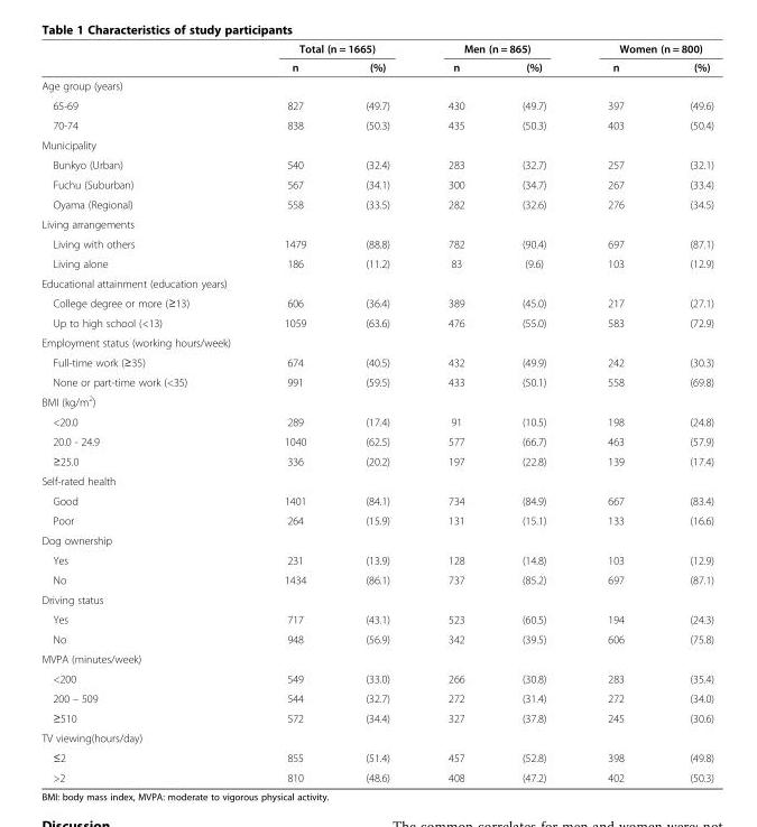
<table><thead><tr><td rowspan="2"></td><td colspan="2">Total (n = 1665)</td><td colspan="2">Men (n = 865)</td><td colspan="2">Women (n = 800)</td></tr><tr><td>n</td><td>(%)</td><td>n</td><td>(%)</td><td>n</td><td>(%)</td></tr></thead><tbody><tr><td colspan="7">Age group (years)</td></tr><tr><td>65-69</td><td>827</td><td>(49.7)</td><td>430</td><td>(49.7)</td><td>397</td><td>(49.6)</td></tr><tr><td>70-74</td><td>838</td><td>(50.3)</td><td>435</td><td>(50.3)</td><td>403</td><td>(50.4)</td></tr><tr><td colspan="7">Municipality</td></tr><tr><td>Bunkyo (Urban)</td><td>540</td><td>(32.4)</td><td>283</td><td>(32.7)</td><td>257</td><td>(32.1)</td></tr><tr><td>Fuchu (Suburban)</td><td>567</td><td>(34.1)</td><td>300</td><td>(34.7)</td><td>267</td><td>(33.4)</td></tr><tr><td>Oyama (Regional)</td><td>558</td><td>(33.5)</td><td>282</td><td>(32.6)</td><td>276</td><td>(34.5)</td></tr><tr><td colspan="7">Living arrangements</td></tr><tr><td>Living with others</td><td>1479</td><td>(88.8)</td><td>782</td><td>(90.4)</td><td>697</td><td>(87.1)</td></tr><tr><td>Living alone</td><td>186</td><td>(11.2)</td><td>83</td><td>(9.6)</td><td>103</td><td>(12.9)</td></tr><tr><td colspan="7">Educational attainment (education years)</td></tr><tr><td>College degree or more (≥13)</td><td>606</td><td>(36.4)</td><td>389</td><td>(45.0)</td><td>217</td><td>(27.1)</td></tr><tr><td>Up to high school (&lt;13)</td><td>1059</td><td>(63.6)</td><td>476</td><td>(55.0)</td><td>583</td><td>(72.9)</td></tr><tr><td colspan="7">Employment status (working hours/week)</td></tr><tr><td>Full-time work (≥35)</td><td>674</td><td>(40.5)</td><td>432</td><td>(49.9)</td><td>242</td><td>(30.3)</td></tr><tr><td>None or part-time work (&lt;35)</td><td>991</td><td>(59.5)</td><td>433</td><td>(50.1)</td><td>558</td><td>(69.8)</td></tr><tr><td colspan="7">BMI (kg/m<sup>2</sup>)</td></tr><tr><td>&lt;20.0</td><td>289</td><td>(17.4)</td><td>91</td><td>(10.5)</td><td>198</td><td>(24.8)</td></tr><tr><td>20.0 - 24.9</td><td>1040</td><td>(62.5)</td><td>577</td><td>(66.7)</td><td>463</td><td>(57.9)</td></tr><tr><td>≥25.0</td><td>336</td><td>(20.2)</td><td>197</td><td>(22.8)</td><td>139</td><td>(17.4)</td></tr><tr><td colspan="7">Self-rated health</td></tr><tr><td>Good</td><td>1401</td><td>(84.1)</td><td>734</td><td>(84.9)</td><td>667</td><td>(83.4)</td></tr><tr><td>Poor</td><td>264</td><td>(15.9)</td><td>131</td><td>(15.1)</td><td>133</td><td>(16.6)</td></tr><tr><td colspan="7">Dog ownership</td></tr><tr><td>Yes</td><td>231</td><td>(13.9)</td><td>128</td><td>(14.8)</td><td>103</td><td>(12.9)</td></tr><tr><td>No</td><td>1434</td><td>(86.1)</td><td>737</td><td>(85.2)</td><td>697</td><td>(87.1)</td></tr><tr><td colspan="7">Driving status</td></tr><tr><td>Yes</td><td>717</td><td>(43.1)</td><td>523</td><td>(60.5)</td><td>194</td><td>(24.3)</td></tr><tr><td>No</td><td>948</td><td>(56.9)</td><td>342</td><td>(39.5)</td><td>606</td><td>(75.8)</td></tr><tr><td colspan="7">MVPA (minutes/week)</td></tr><tr><td>&lt;200</td><td>549</td><td>(33.0)</td><td>266</td><td>(30.8)</td><td>283</td><td>(35.4)</td></tr><tr><td>200 – 509</td><td>544</td><td>(32.7)</td><td>272</td><td>(31.4)</td><td>272</td><td>(34.0)</td></tr><tr><td>≥510</td><td>572</td><td>(34.4)</td><td>327</td><td>(37.8)</td><td>245</td><td>(30.6)</td></tr><tr><td colspan="7">TV viewing(hours/day)</td></tr><tr><td>≤2</td><td>855</td><td>(51.4)</td><td>457</td><td>(52.8)</td><td>398</td><td>(49.8)</td></tr><tr><td>&gt;2</td><td>810</td><td>(48.6)</td><td>408</td><td>(47.2)</td><td>402</td><td>(50.3)</td></tr></tbody></table>